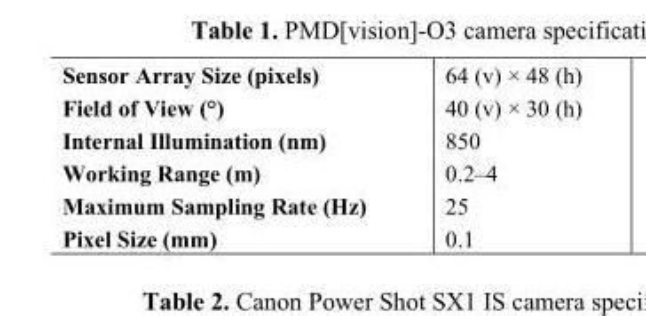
<table><tbody><tr><td>Sensor Array Size (pixels)</td><td>64 (v) × 48 (h)</td></tr><tr><td>Field of View (°)</td><td>40 (v) × 30 (h)</td></tr><tr><td>Internal Illumination (nm)</td><td>850</td></tr><tr><td>Working Range (m)</td><td>0.2–4</td></tr><tr><td>Maximum Sampling Rate (Hz)</td><td>25</td></tr><tr><td>Pixel Size (mm)</td><td>0.1</td></tr></tbody></table>